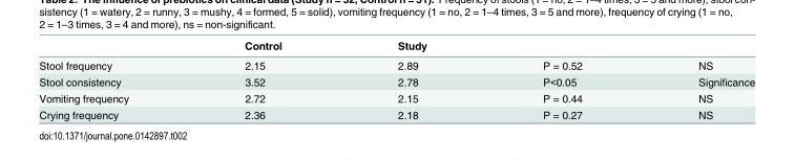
<table><thead><tr><td></td><td>Control</td><td>Study</td><td></td><td></td></tr></thead><tbody><tr><td>Stool frequency</td><td>2.15</td><td>2.89</td><td>P = 0.52</td><td>NS</td></tr><tr><td>Stool consistency</td><td>3.52</td><td>2.78</td><td>P&lt;0.05</td><td>Significance</td></tr><tr><td>Vomiting frequency</td><td>2.72</td><td>2.15</td><td>P = 0.44</td><td>NS</td></tr><tr><td>Crying frequency</td><td>2.36</td><td>2.18</td><td>P = 0.27</td><td>NS</td></tr></tbody></table>